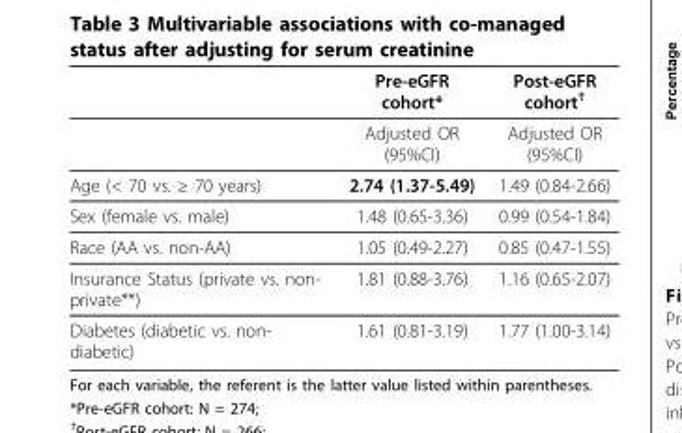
<table><thead><tr><td></td><td>Pre-eGFR cohort*</td><td>Post-eGFR cohort<sup>†</sup></td></tr></thead><tbody><tr><td></td><td>Adjusted OR (95%CI)</td><td>Adjusted OR (95%CI)</td></tr><tr><td>Age (&lt; 70 vs. ≥ 70 years)</td><td>2.74 (1.37-5.49)</td><td>1.49 (0.84-2.66)</td></tr><tr><td>Sex (female vs. male)</td><td>1.48 (0.65-3.36)</td><td>0.99 (0.54-1.84)</td></tr><tr><td>Race (AA vs. non-AA)</td><td>1.05 (0.49-2.27)</td><td>0.85 (0.47-1.55)</td></tr><tr><td>Insurance Status (private vs. non- private**)</td><td>1.81 (0.88-3.76)</td><td>1.16 (0.65-2.07)</td></tr><tr><td>Diabetes (diabetic vs. non- diabetic)</td><td>1.61 (0.81-3.19)</td><td>1.77 (1.00-3.14)</td></tr></tbody></table>